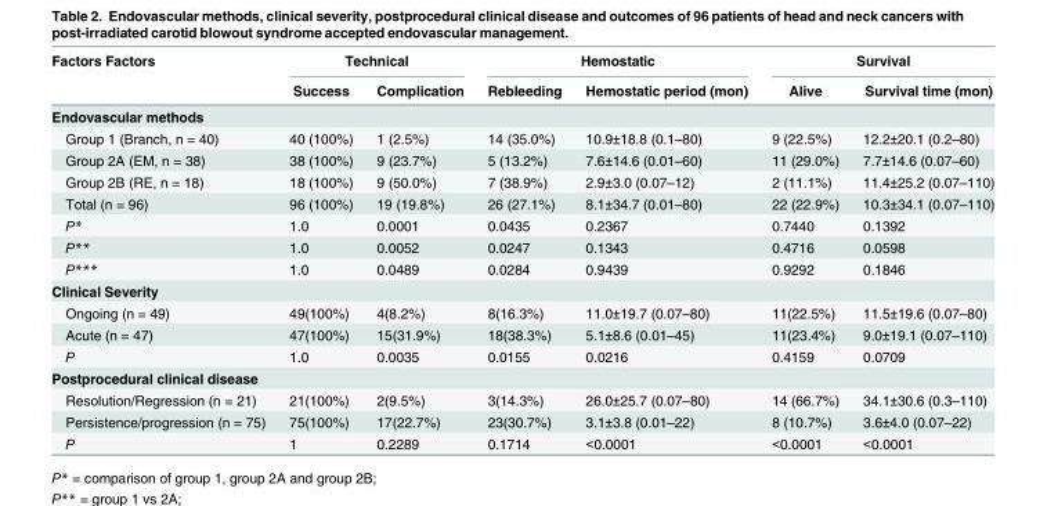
<table><thead><tr><td rowspan="2">Factors Factors</td><td colspan="2">Technical</td><td colspan="2">Hemostatic</td><td colspan="2">Survival</td></tr><tr><td>Success</td><td>Complication</td><td>Rebleeding</td><td>Hemostatic period (mon)</td><td>Alive</td><td>Survival time (mon)</td></tr></thead><tbody><tr><td colspan="7">Endovascular methods</td></tr><tr><td>Group 1 (Branch, n = 40)</td><td>40 (100%)</td><td>1 (2.5%)</td><td>14 (35.0%)</td><td>10.9±18.8 (0.1–80)</td><td>9 (22.5%)</td><td>12.2±20.1 (0.2–80)</td></tr><tr><td>Group 2A (EM, n = 38)</td><td>38 (100%)</td><td>9 (23.7%)</td><td>5 (13.2%)</td><td>7.6±14.6 (0.01–60)</td><td>11 (29.0%)</td><td>7.7±14.6 (0.07–60)</td></tr><tr><td>Group 2B (RE, n = 18)</td><td>18 (100%)</td><td>9 (50.0%)</td><td>7 (38.9%)</td><td>2.9±3.0 (0.07–12)</td><td>2 (11.1%)</td><td>11.4±25.2 (0.07–110)</td></tr><tr><td>Total (n = 96)</td><td>96 (100%)</td><td>19 (19.8%)</td><td>26 (27.1%)</td><td>8.1±34.7 (0.01–80)</td><td>22 (22.9%)</td><td>10.3±34.1 (0.07–110)</td></tr><tr><td>P*</td><td>1.0</td><td>0.0001</td><td>0.0435</td><td>0.2367</td><td>0.7440</td><td>0.1392</td></tr><tr><td>P**</td><td>1.0</td><td>0.0052</td><td>0.0247</td><td>0.1343</td><td>0.4716</td><td>0.0598</td></tr><tr><td>P***</td><td>1.0</td><td>0.0489</td><td>0.0284</td><td>0.9439</td><td>0.9292</td><td>0.1846</td></tr><tr><td colspan="7">Clinical Severity</td></tr><tr><td>Ongoing (n = 49)</td><td>49(100%)</td><td>4(8.2%)</td><td>8(16.3%)</td><td>11.0±19.7 (0.07–80)</td><td>11(22.5%)</td><td>11.5±19.6 (0.07–80)</td></tr><tr><td>Acute (n = 47)</td><td>47(100%)</td><td>15(31.9%)</td><td>18(38.3%)</td><td>5.1±8.6 (0.01–45)</td><td>11(23.4%)</td><td>9.0±19.1 (0.07–110)</td></tr><tr><td>P</td><td>1.0</td><td>0.0035</td><td>0.0155</td><td>0.0216</td><td>0.4159</td><td>0.0709</td></tr><tr><td colspan="7">Postprocedural clinical disease</td></tr><tr><td>Resolution/Regression (n = 21)</td><td>21(100%)</td><td>2(9.5%)</td><td>3(14.3%)</td><td>26.0±25.7 (0.07–80)</td><td>14 (66.7%)</td><td>34.1±30.6 (0.3–110)</td></tr><tr><td>Persistence/progression (n = 75)</td><td>75(100%)</td><td>17(22.7%)</td><td>23(30.7%)</td><td>3.1±3.8 (0.01–22)</td><td>8 (10.7%)</td><td>3.6±4.0 (0.07–22)</td></tr><tr><td>P</td><td>1</td><td>0.2289</td><td>0.1714</td><td>&lt;0.0001</td><td>&lt;0.0001</td><td>&lt;0.0001</td></tr></tbody></table>